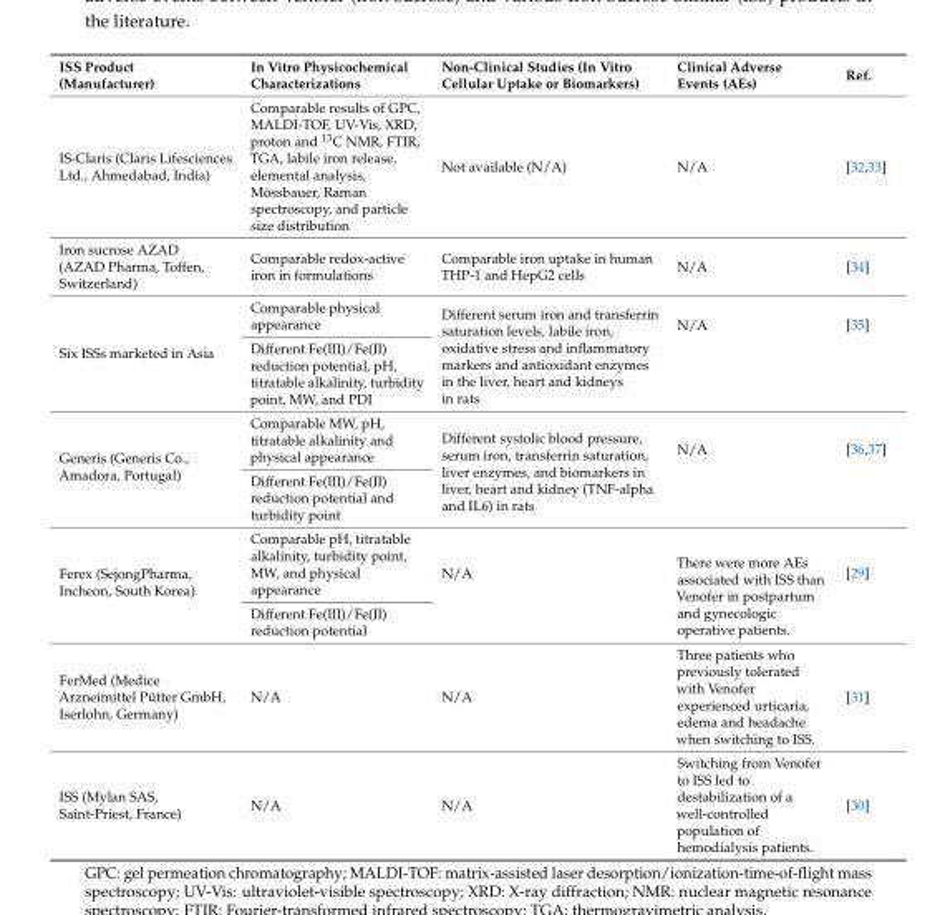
<table><thead><tr><td>ISS Product (Manufacturer)</td><td>In Vitro Physicochemical Characterizations</td><td>Non-Clinical Studies (In Vitro Cellular Uptake or Biomarkers)</td><td>Clinical Adverse Events (AEs)</td><td>Ref.</td></tr></thead><tbody><tr><td>IS-Claris (Claris Lifesciences Ltd., Ahmedabad, India)</td><td>Comparable results of GPC, MALDI-TOF, UV-Vis, XRD, proton and <sup>13</sup>C NMR, FTIR, TGA, labile iron release, elemental analysis, Mössbauer, Raman spectroscopy, and particle size distribution</td><td>Not available (N/A)</td><td>N/A</td><td>[32,33]</td></tr><tr><td>Iron sucrose AZAD (AZAD Pharma, Toffen, Switzerland)</td><td>Comparable redox-active iron in formulations</td><td>Comparable iron uptake in human THP-1 and HepG2 cells</td><td>N/A</td><td>[34]</td></tr><tr><td rowspan="2">Six ISSs marketed in Asia</td><td>Comparable physical appearance</td><td rowspan="2">Different serum iron and transferrin saturation levels, labile iron, oxidative stress and inflammatory markers and antioxidant enzymes in the liver, heart and kidneys in rats</td><td rowspan="2">N/A</td><td rowspan="2">[35]</td></tr><tr><td>Different Fe(III)/Fe(II) reduction potential, pH, titratable alkalinity, turbidity point, MW, and PDI</td></tr><tr><td rowspan="2">Generis (Generis Co., Amadora, Portugal)</td><td>Comparable MW, pH, titratable alkalinity and physical appearance</td><td rowspan="2">Different systolic blood pressure, serum iron, transferrin saturation, liver enzymes, and biomarkers in liver, heart and kidney (TNF-alpha and IL6) in rats</td><td rowspan="2">N/A</td><td rowspan="2">[36,37]</td></tr><tr><td>Different Fe(III)/Fe(II) reduction potential and turbidity point</td></tr><tr><td rowspan="2">Ferex (SejongPharma, Incheon, South Korea)</td><td>Comparable pH, titratable alkalinity, turbidity point, MW, and physical appearance</td><td rowspan="2">N/A</td><td rowspan="2">There were more AEs associated with ISS than Venofer in postpartum and gynecologic operative patients.</td><td rowspan="2">[29]</td></tr><tr><td>Different Fe(III)/Fe(II) reduction potential</td></tr><tr><td>FerMed (Medice Arzneimittel Pütter GmbH, Iserlohn, Germany)</td><td>N/A</td><td>N/A</td><td>Three patients who previously tolerated with Venofer experienced urticaria, edema and headache when switching to ISS.</td><td>[31]</td></tr><tr><td>ISS (Mylan SAS, Saint-Priest, France)</td><td>N/A</td><td>N/A</td><td>Switching from Venofer to ISS led to destabilization of a well-controlled population of hemodialysis patients.</td><td>[30]</td></tr></tbody></table>